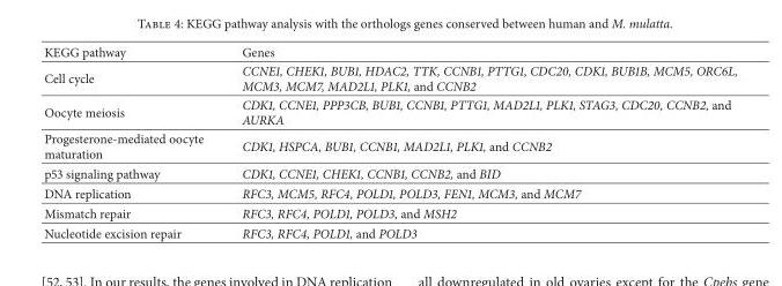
<table><thead><tr><td>KEGG pathway</td><td>Genes</td></tr></thead><tbody><tr><td>Cell cycle</td><td>CCNE1, CHEK1, BUB1, HDAC2, TTK, CCNB1, PTTG1, CDC20, CDK1, BUB1B, MCM5, ORC6L, MCM3, MCM7, MAD2L1, PLK1, and CCNB2</td></tr><tr><td>Oocyte meiosis</td><td>CDK1, CCNE1, PPP3CB, BUB1, CCNB1, PTTG1, MAD2L1, PLK1, STAG3, CDC20, CCNB2, and AURKA</td></tr><tr><td>Progesterone-mediated oocyte maturation</td><td>CDK1, HSPCA, BUB1, CCNB1, MAD2L1, PLK1, and CCNB2</td></tr><tr><td>p53 signaling pathway</td><td>CDK1, CCNE1, CHEK1, CCNB1, CCNB2, and BID</td></tr><tr><td>DNA replication</td><td>RFC3, MCM5, RFC4, POLD1, POLD3, FEN1, MCM3, and MCM7</td></tr><tr><td>Mismatch repair</td><td>RFC3, RFC4, POLD1, POLD3, and MSH2</td></tr><tr><td>Nucleotide excision repair</td><td>RFC3, RFC4, POLD1, and POLD3</td></tr></tbody></table>